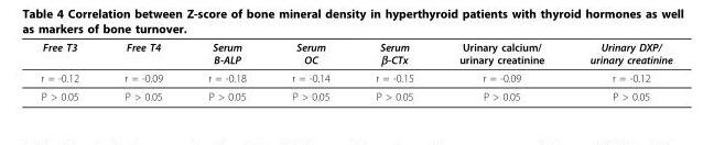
<table><thead><tr><td>Free T3</td><td>Free T4</td><td>Serum B-ALP</td><td>Serum OC</td><td>Serum β-CTx</td><td>Urinary calcium/ urinary creatinine</td><td>Urinary DXP/ urinary creatinine</td></tr></thead><tbody><tr><td>r = -0.12</td><td>r = -0.09</td><td>r = -0.18</td><td>r = -0.14</td><td>r = -0.15</td><td>r = -0.09</td><td>r = -0.12</td></tr><tr><td>P &gt; 0.05</td><td>P &gt; 0.05</td><td>P &gt; 0.05</td><td>P &gt; 0.05</td><td>P &gt; 0.05</td><td>P &gt; 0.05</td><td>P &gt; 0.05</td></tr></tbody></table>